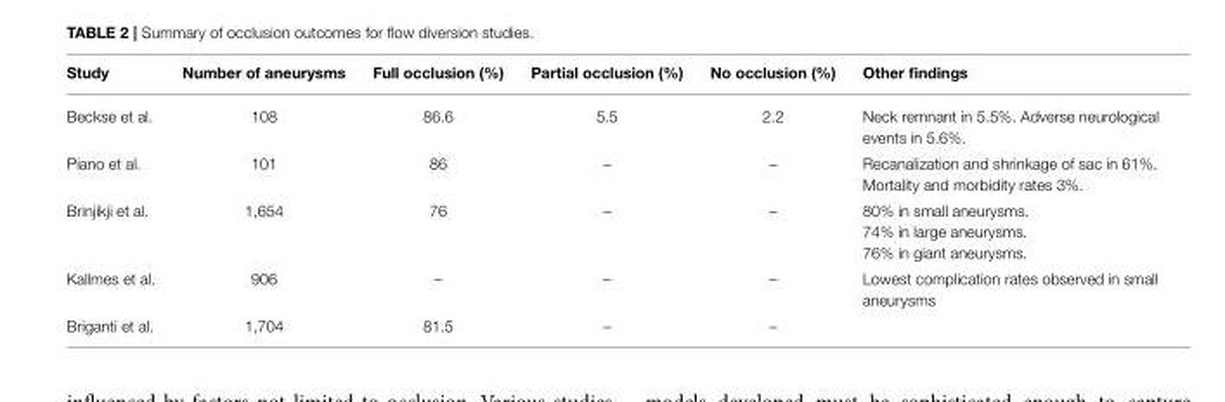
<table><thead><tr><td>Study</td><td>Number of aneurysms</td><td>Full occlusion (%)</td><td>Partial occlusion (%)</td><td>No occlusion (%)</td><td>Other findings</td></tr></thead><tbody><tr><td>Beckse et al.</td><td>108</td><td>86.6</td><td>5.5</td><td>2.2</td><td>Neck remnant in 5.5%. Adverse neurological events in 5.6%.</td></tr><tr><td>Piano et al.</td><td>101</td><td>86</td><td>–</td><td>–</td><td>Recanalization and shrinkage of sac in 61%. Mortality and morbidity rates 3%.</td></tr><tr><td>Brinjikji et al.</td><td>1,654</td><td>76</td><td>–</td><td>–</td><td>80% in small aneurysms. 74% in large aneurysms. 76% in giant aneurysms.</td></tr><tr><td>Kallmes et al.</td><td>906</td><td>–</td><td>–</td><td>–</td><td>Lowest complication rates observed in small aneurysms</td></tr><tr><td>Briganti et al.</td><td>1,704</td><td>81.5</td><td>–</td><td>–</td><td></td></tr></tbody></table>